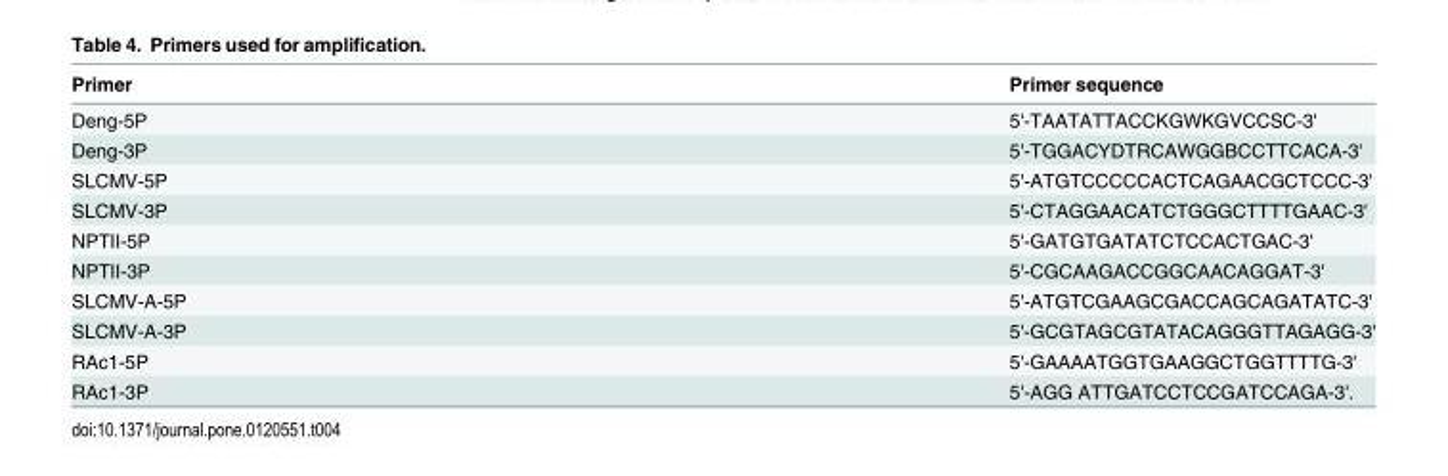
<table><thead><tr><td>Primer</td><td>Primer sequence</td></tr></thead><tbody><tr><td>Deng-5P</td><td>5&#x27;-TAATATTACCKGWKGVCCSC-3&#x27;</td></tr><tr><td>Deng-3P</td><td>5&#x27;-TGGACYDTRCAWGGBCCTTCACA-3&#x27;</td></tr><tr><td>SLCMV-5P</td><td>5&#x27;-ATGTCCCCCACTCAGAACGCTCCC-3&#x27;</td></tr><tr><td>SLCMV-3P</td><td>5&#x27;-CTAGGAACATCTGGGCTTTTGAAC-3&#x27;</td></tr><tr><td>NPTII-5P</td><td>5&#x27;-GATGTGATATCTCCACTGAC-3&#x27;</td></tr><tr><td>NPTII-3P</td><td>5&#x27;-CGCAAGACCGGCAACAGGAT-3&#x27;</td></tr><tr><td>SLCMV-A-5P</td><td>5&#x27;-ATGTCGAAGCGACCAGCAGATATC-3&#x27;</td></tr><tr><td>SLCMV-A-3P</td><td>5&#x27;-GCGTAGCGTATACAGGGTTAGAGG-3&#x27;</td></tr><tr><td>RAc1-5P</td><td>5&#x27;-GAAAATGGTGAAGGCTGGTTTTG-3&#x27;</td></tr><tr><td>RAc1-3P</td><td>5&#x27;-AGG ATTGATCCTCCGATCCAGA-3&#x27;.</td></tr></tbody></table>